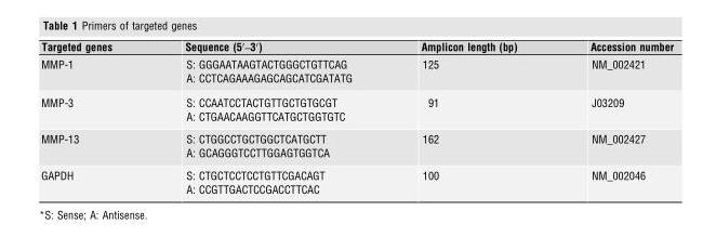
<table><thead><tr><td>Targeted genes</td><td>Sequence (5′–3′)</td><td>Amplicon length (bp)</td><td>Accession number</td></tr></thead><tbody><tr><td rowspan="2">MMP-1</td><td>S: GGGAATAAGTACTGGGCTGTTCAG</td><td>125</td><td>NM_002421</td></tr><tr><td>A: CCTCAGAAAGAGCAGCATCGATATG</td><td></td><td></td></tr><tr><td rowspan="2">MMP-3</td><td>S: CCAATCCTACTGTTGCTGTGCGT</td><td>91</td><td>J03209</td></tr><tr><td>A: CTGAACAAGGTTCATGCTGGTGTC</td><td></td><td></td></tr><tr><td rowspan="2">MMP-13</td><td>S: CTGGCCTGCTGGCTCATGCTT</td><td>162</td><td>NM_002427</td></tr><tr><td>A: GCAGGGTCCTTGGAGTGGTCA</td><td></td><td></td></tr><tr><td rowspan="2">GAPDH</td><td>S: CTGCTCCTCCTGTTCGACAGT</td><td>100</td><td>NM_002046</td></tr><tr><td>A: CCGTTGACTCCGACCTTCAC</td><td></td><td></td></tr></tbody></table>